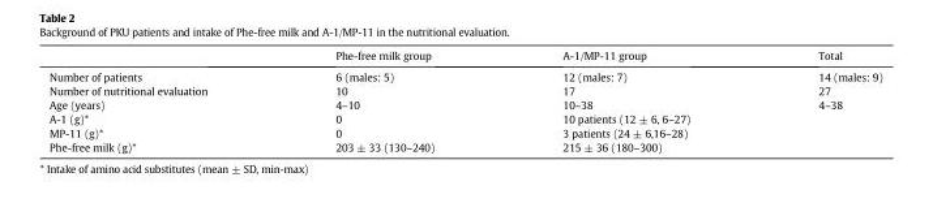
<table><thead><tr><td></td><td>Phe-free milk group</td><td>A-1/MP-11 group</td><td>Total</td></tr></thead><tbody><tr><td>Number of patients</td><td>6 (males: 5)</td><td>12 (males: 7)</td><td>14 (males: 9)</td></tr><tr><td>Number of nutritional evaluation</td><td>10</td><td>17</td><td>27</td></tr><tr><td>Age (years)</td><td>4–10</td><td>10–38</td><td>4–38</td></tr><tr><td>A-1 (g)*</td><td>0</td><td>10 patients (12 ± 6, 6–27)</td><td></td></tr><tr><td>MP-11 (g)*</td><td>0</td><td>3 patients (24 ± 6,16–28)</td><td></td></tr><tr><td>Phe-free milk (g)*</td><td>203 ± 33 (130–240)</td><td>215 ± 36 (180–300)</td><td></td></tr></tbody></table>